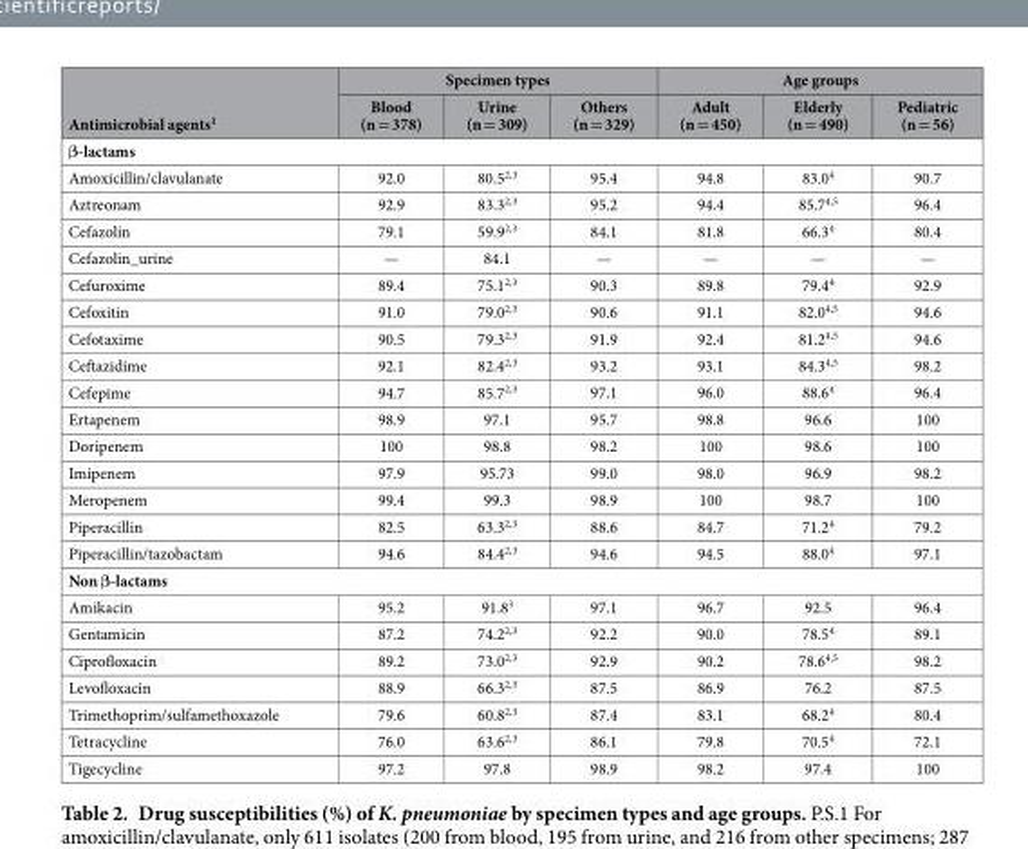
<table><thead><tr><td rowspan="2">Antimicrobial agents<sup>1</sup></td><td colspan="3">Specimen types</td><td colspan="3">Age groups</td></tr><tr><td>Blood (n = 378)</td><td>Urine (n = 309)</td><td>Others (n = 329)</td><td>Adult (n = 450)</td><td>Elderly (n = 490)</td><td>Pediatric (n = 56)</td></tr></thead><tbody><tr><td colspan="7">β-lactams</td></tr><tr><td>Amoxicillin/clavulanate</td><td>92.0</td><td>80.52,<sup>3</sup></td><td>95.4</td><td>94.8</td><td>83.0<sup>4</sup></td><td>90.7</td></tr><tr><td>Aztreonam</td><td>92.9</td><td>83.32,<sup>3</sup></td><td>95.2</td><td>94.4</td><td>85.7<sup>4</sup>,<sup>5</sup></td><td>96.4</td></tr><tr><td>Cefazolin</td><td>79.1</td><td>59.92,<sup>3</sup></td><td>84.1</td><td>81.8</td><td>66.3<sup>4</sup></td><td>80.4</td></tr><tr><td>Cefazolin_urine</td><td>—</td><td>84.1</td><td>—</td><td>—</td><td>—</td><td>—</td></tr><tr><td>Cefuroxime</td><td>89.4</td><td>75.12,<sup>3</sup></td><td>90.3</td><td>89.8</td><td>79.4<sup>4</sup></td><td>92.9</td></tr><tr><td>Cefoxitin</td><td>91.0</td><td>79.02,<sup>3</sup></td><td>90.6</td><td>91.1</td><td>82.0<sup>4</sup>,<sup>5</sup></td><td>94.6</td></tr><tr><td>Cefotaxime</td><td>90.5</td><td>79.3<sup>2</sup>,<sup>3</sup></td><td>91.9</td><td>92.4</td><td>81.2<sup>4</sup>,<sup>5</sup></td><td>94.6</td></tr><tr><td>Ceftazidime</td><td>92.1</td><td>82.4<sup>2</sup>,<sup>3</sup></td><td>93.2</td><td>93.1</td><td>84.3<sup>4</sup>,<sup>5</sup></td><td>98.2</td></tr><tr><td>Cefepime</td><td>94.7</td><td>85.7<sup>2</sup>,<sup>3</sup></td><td>97.1</td><td>96.0</td><td>88.6<sup>4</sup></td><td>96.4</td></tr><tr><td>Ertapenem</td><td>98.9</td><td>97.1</td><td>95.7</td><td>98.8</td><td>96.6</td><td>100</td></tr><tr><td>Doripenem</td><td>100</td><td>98.8</td><td>98.2</td><td>100</td><td>98.6</td><td>100</td></tr><tr><td>Imipenem</td><td>97.9</td><td>95.73</td><td>99.0</td><td>98.0</td><td>96.9</td><td>98.2</td></tr><tr><td>Meropenem</td><td>99.4</td><td>99.3</td><td>98.9</td><td>100</td><td>98.7</td><td>100</td></tr><tr><td>Piperacillin</td><td>82.5</td><td>63.3<sup>2</sup>,<sup>3</sup></td><td>88.6</td><td>84.7</td><td>71.2<sup>4</sup></td><td>79.2</td></tr><tr><td>Piperacillin/tazobactam</td><td>94.6</td><td>84.4<sup>2</sup>,<sup>3</sup></td><td>94.6</td><td>94.5</td><td>88.0<sup>4</sup></td><td>97.1</td></tr><tr><td colspan="7">Non β-lactams</td></tr><tr><td>Amikacin</td><td>95.2</td><td>91.8<sup>3</sup></td><td>97.1</td><td>96.7</td><td>92.5</td><td>96.4</td></tr><tr><td>Gentamicin</td><td>87.2</td><td>74.2<sup>2,3</sup></td><td>92.2</td><td>90.0</td><td>78.5<sup>4</sup></td><td>89.1</td></tr><tr><td>Ciprofloxacin</td><td>89.2</td><td>73.0<sup>2</sup>,<sup>3</sup></td><td>92.9</td><td>90.2</td><td>78.6<sup>4</sup>,<sup>5</sup></td><td>98.2</td></tr><tr><td>Levofloxacin</td><td>88.9</td><td>66.3<sup>2</sup>,<sup>3</sup></td><td>87.5</td><td>86.9</td><td>76.2</td><td>87.5</td></tr><tr><td>Trimethoprim/sulfamethoxazole</td><td>79.6</td><td>60.8<sup>2</sup>,<sup>3</sup></td><td>87.4</td><td>83.1</td><td>68.2<sup>4</sup></td><td>80.4</td></tr><tr><td>Tetracycline</td><td>76.0</td><td>63.6<sup>2</sup>,<sup>3</sup></td><td>86.1</td><td>79.8</td><td>70.5<sup>4</sup></td><td>72.1</td></tr><tr><td>Tigecycline</td><td>97.2</td><td>97.8</td><td>98.9</td><td>98.2</td><td>97.4</td><td>100</td></tr></tbody></table>